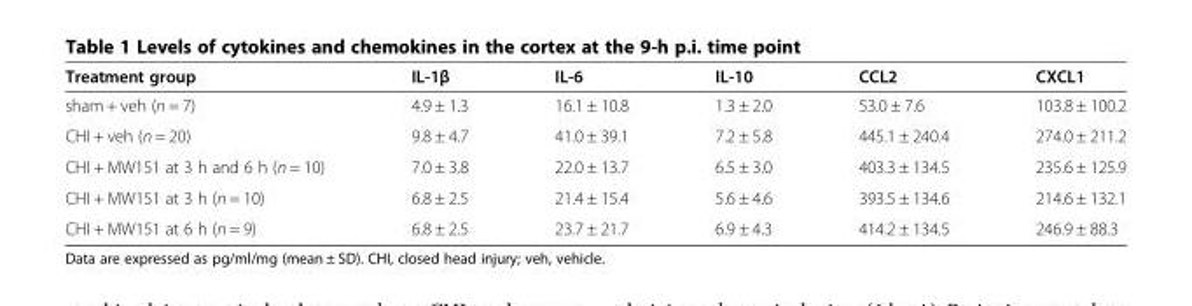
<table><thead><tr><td>Treatment group</td><td>IL-1β</td><td>IL-6</td><td>IL-10</td><td>CCL2</td><td>CXCL1</td></tr></thead><tbody><tr><td>sham + veh (n = 7)</td><td>4.9 ± 1.3</td><td>16.1 ± 10.8</td><td>1.3 ± 2.0</td><td>53.0 ± 7.6</td><td>103.8 ± 100.2</td></tr><tr><td>CHI + veh (n = 20)</td><td>9.8 ± 4.7</td><td>41.0 ± 39.1</td><td>7.2 ± 5.8</td><td>445.1 ± 240.4</td><td>274.0 ± 211.2</td></tr><tr><td>CHI + MW151 at 3 h and 6 h (n = 10)</td><td>7.0 ± 3.8</td><td>22.0 ± 13.7</td><td>6.5 ± 3.0</td><td>403.3 ± 134.5</td><td>235.6 ± 125.9</td></tr><tr><td>CHI + MW151 at 3 h (n = 10)</td><td>6.8 ± 2.5</td><td>21.4 ± 15.4</td><td>5.6 ± 4.6</td><td>393.5 ± 134.6</td><td>214.6 ± 132.1</td></tr><tr><td>CHI + MW151 at 6 h (n = 9)</td><td>6.8 ± 2.5</td><td>23.7 ± 21.7</td><td>6.9 ± 4.3</td><td>414.2 ± 134.5</td><td>246.9 ± 88.3</td></tr></tbody></table>